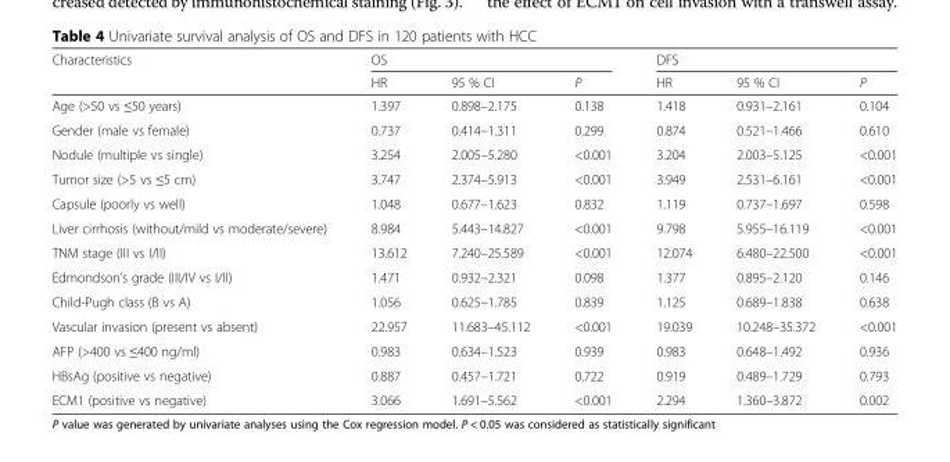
<table><thead><tr><td rowspan="2">Characteristics</td><td colspan="3">OS</td><td colspan="3">DFS</td></tr><tr><td>HR</td><td>95 % CI</td><td>P</td><td>HR</td><td>95 % CI</td><td>P</td></tr></thead><tbody><tr><td>Age (&gt;50 vs ≤50 years)</td><td>1.397</td><td>0.898–2.175</td><td>0.138</td><td>1.418</td><td>0.931–2.161</td><td>0.104</td></tr><tr><td>Gender (male vs female)</td><td>0.737</td><td>0.414–1.311</td><td>0.299</td><td>0.874</td><td>0.521–1.466</td><td>0.610</td></tr><tr><td>Nodule (multiple vs single)</td><td>3.254</td><td>2.005–5.280</td><td>&lt;0.001</td><td>3.204</td><td>2.003–5.125</td><td>&lt;0.001</td></tr><tr><td>Tumor size (&gt;5 vs ≤5 cm)</td><td>3.747</td><td>2.374–5.913</td><td>&lt;0.001</td><td>3.949</td><td>2.531–6.161</td><td>&lt;0.001</td></tr><tr><td>Capsule (poorly vs well)</td><td>1.048</td><td>0.677–1.623</td><td>0.832</td><td>1.119</td><td>0.737–1.697</td><td>0.598</td></tr><tr><td>Liver cirrhosis (without/mild vs moderate/severe)</td><td>8.984</td><td>5.443–14.827</td><td>&lt;0.001</td><td>9.798</td><td>5.955–16.119</td><td>&lt;0.001</td></tr><tr><td>TNM stage (III vs I/II)</td><td>13.612</td><td>7.240–25.589</td><td>&lt;0.001</td><td>12.074</td><td>6.480–22.500</td><td>&lt;0.001</td></tr><tr><td>Edmondson’s grade (III/IV vs I/II)</td><td>1.471</td><td>0.932–2.321</td><td>0.098</td><td>1.377</td><td>0.895–2.120</td><td>0.146</td></tr><tr><td>Child-Pugh class (B vs A)</td><td>1.056</td><td>0.625–1.785</td><td>0.839</td><td>1.125</td><td>0.689–1.838</td><td>0.638</td></tr><tr><td>Vascular invasion (present vs absent)</td><td>22.957</td><td>11.683–45.112</td><td>&lt;0.001</td><td>19.039</td><td>10.248–35.372</td><td>&lt;0.001</td></tr><tr><td>AFP (&gt;400 vs ≤400 ng/ml)</td><td>0.983</td><td>0.634–1.523</td><td>0.939</td><td>0.983</td><td>0.648–1.492</td><td>0.936</td></tr><tr><td>HBsAg (positive vs negative)</td><td>0.887</td><td>0.457–1.721</td><td>0.722</td><td>0.919</td><td>0.489–1.729</td><td>0.793</td></tr><tr><td>ECM1 (positive vs negative)</td><td>3.066</td><td>1.691–5.562</td><td>&lt;0.001</td><td>2.294</td><td>1.360–3.872</td><td>0.002</td></tr></tbody></table>